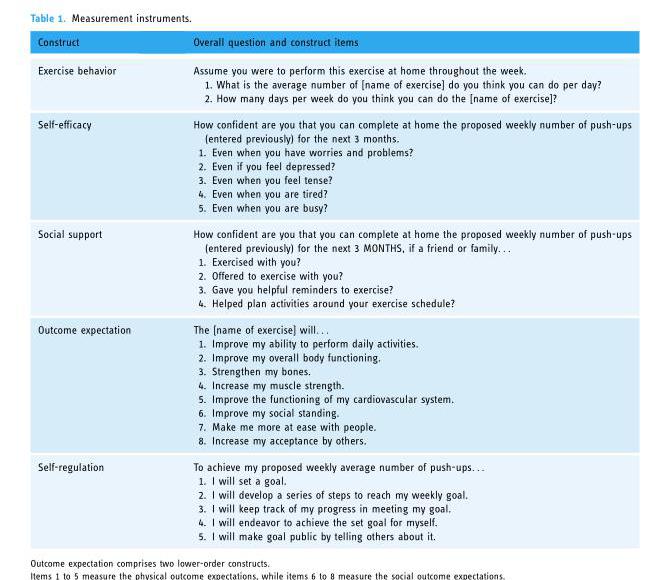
<table><thead><tr><td>Construct</td><td>Overall question and construct items</td></tr></thead><tbody><tr><td>Exercise behavior</td><td>Assume you were to perform this exercise at home throughout the week. 1. What is the average number of [name of exercise] do you think you can do per day? 2. How many days per week do you think you can do the [name of exercise]?</td></tr><tr><td>Self-efficacy</td><td>How confident are you that you can complete at home the proposed weekly number of push-ups (entered previously) for the next 3 months. 1. Even when you have worries and problems? 2. Even if you feel depressed? 3. Even when you feel tense? 4. Even when you are tired? 5. Even when you are busy?</td></tr><tr><td>Social support</td><td>How confident are you that you can complete at home the proposed weekly number of push-ups (entered previously) for the next 3 MONTHS, if a friend or family. . . 1. Exercised with you? 2. Offered to exercise with you? 3. Gave you helpful reminders to exercise? 4. Helped plan activities around your exercise schedule?</td></tr><tr><td>Outcome expectation</td><td>The [name of exercise] will. . . 1. Improve my ability to perform daily activities. 2. Improve my overall body functioning. 3. Strengthen my bones. 4. Increase my muscle strength. 5. Improve the functioning of my cardiovascular system. 6. Improve my social standing. 7. Make me more at ease with people. 8. Increase my acceptance by others.</td></tr><tr><td>Self-regulation</td><td>To achieve my proposed weekly average number of push-ups. . . 1. I will set a goal. 2. I will develop a series of steps to reach my weekly goal. 3. I will keep track of my progress in meeting my goal. 4. I will endeavor to achieve the set goal for myself. 5. I will make goal public by telling others about it.</td></tr></tbody></table>